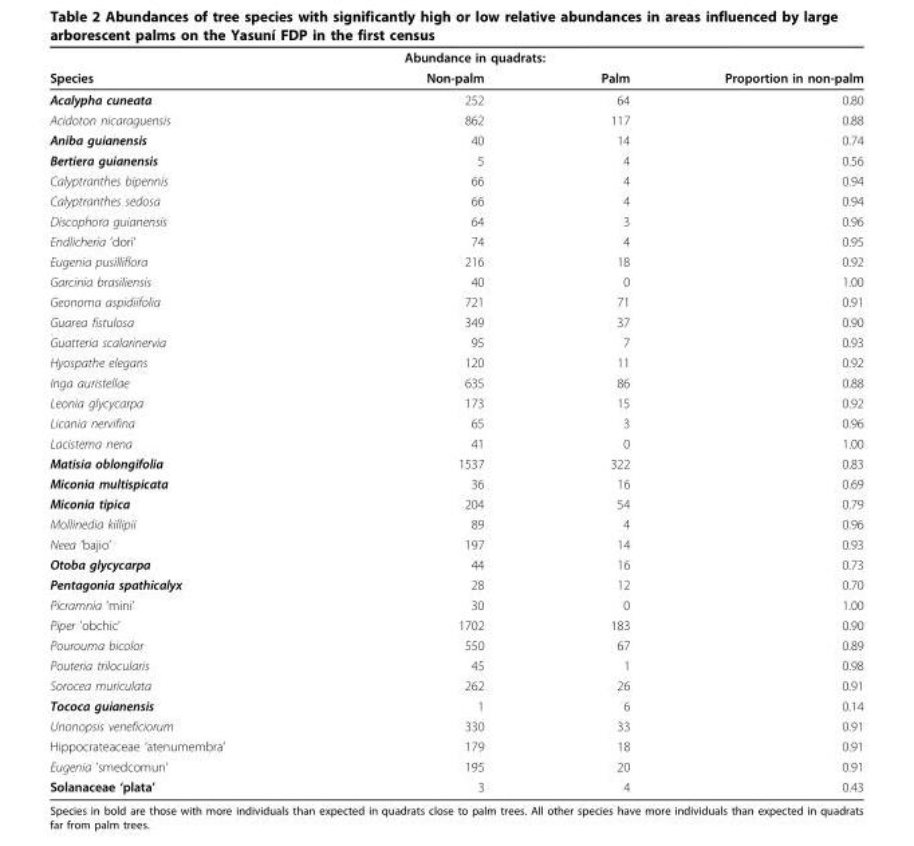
<table><thead><tr><td rowspan="2">Species</td><td colspan="2">Abundance in quadrats:</td><td rowspan="2">Proportion in non-palm</td></tr><tr><td>Non-palm</td><td>Palm</td></tr></thead><tbody><tr><td>Acalypha cuneata</td><td>252</td><td>64</td><td>0.80</td></tr><tr><td>Acidoton nicaraguensis</td><td>862</td><td>117</td><td>0.88</td></tr><tr><td>Aniba guianensis</td><td>40</td><td>14</td><td>0.74</td></tr><tr><td>Bertiera guianensis</td><td>5</td><td>4</td><td>0.56</td></tr><tr><td>Calyptranthes bipennis</td><td>66</td><td>4</td><td>0.94</td></tr><tr><td>Calyptranthes sedosa</td><td>66</td><td>4</td><td>0.94</td></tr><tr><td>Discophora guianensis</td><td>64</td><td>3</td><td>0.96</td></tr><tr><td>Endlicheria ’dori’</td><td>74</td><td>4</td><td>0.95</td></tr><tr><td>Eugenia pusilliflora</td><td>216</td><td>18</td><td>0.92</td></tr><tr><td>Garcinia brasiliensis</td><td>40</td><td>0</td><td>1.00</td></tr><tr><td>Geonoma aspidiifolia</td><td>721</td><td>71</td><td>0.91</td></tr><tr><td>Guarea fistulosa</td><td>349</td><td>37</td><td>0.90</td></tr><tr><td>Guatteria scalarinervia</td><td>95</td><td>7</td><td>0.93</td></tr><tr><td>Hyospathe elegans</td><td>120</td><td>11</td><td>0.92</td></tr><tr><td>Inga auristellae</td><td>635</td><td>86</td><td>0.88</td></tr><tr><td>Leonia glycycarpa</td><td>173</td><td>15</td><td>0.92</td></tr><tr><td>Licania nervifina</td><td>65</td><td>3</td><td>0.96</td></tr><tr><td>Lacistema nena</td><td>41</td><td>0</td><td>1.00</td></tr><tr><td>Matisia oblongifolia</td><td>1537</td><td>322</td><td>0.83</td></tr><tr><td>Miconia multispicata</td><td>36</td><td>16</td><td>0.69</td></tr><tr><td>Miconia tipica</td><td>204</td><td>54</td><td>0.79</td></tr><tr><td>Mollinedia killipii</td><td>89</td><td>4</td><td>0.96</td></tr><tr><td>Neea ’bajio’</td><td>197</td><td>14</td><td>0.93</td></tr><tr><td>Otoba glycycarpa</td><td>44</td><td>16</td><td>0.73</td></tr><tr><td>Pentagonia spathicalyx</td><td>28</td><td>12</td><td>0.70</td></tr><tr><td>Picramnia ’mini’</td><td>30</td><td>0</td><td>1.00</td></tr><tr><td>Piper ’obchic’</td><td>1702</td><td>183</td><td>0.90</td></tr><tr><td>Pourouma bicolor</td><td>550</td><td>67</td><td>0.89</td></tr><tr><td>Pouteria trilocularis</td><td>45</td><td>1</td><td>0.98</td></tr><tr><td>Sorocea muriculata</td><td>262</td><td>26</td><td>0.91</td></tr><tr><td>Tococa guianensis</td><td>1</td><td>6</td><td>0.14</td></tr><tr><td>Unonopsis veneficiorum</td><td>330</td><td>33</td><td>0.91</td></tr><tr><td>Hippocrateaceae ‘atenumembra’</td><td>179</td><td>18</td><td>0.91</td></tr><tr><td>Eugenia ’smedcomun’</td><td>195</td><td>20</td><td>0.91</td></tr><tr><td>Solanaceae ‘plata’</td><td>3</td><td>4</td><td>0.43</td></tr></tbody></table>